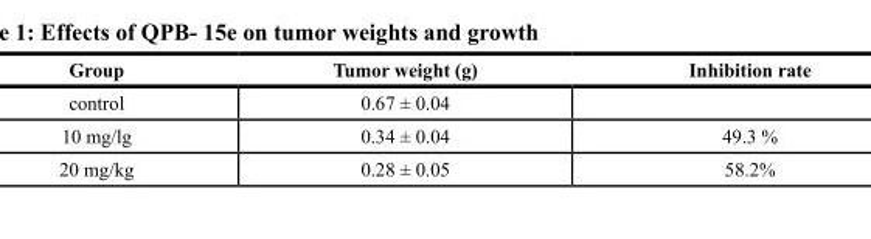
<table><thead><tr><td>Group</td><td>Tumor weight (g)</td><td>Inhibition rate</td></tr></thead><tbody><tr><td>control</td><td>0.67 ± 0.04</td><td></td></tr><tr><td>10 mg/lg</td><td>0.34 ± 0.04</td><td>49.3 %</td></tr><tr><td>20 mg/kg</td><td>0.28 ± 0.05</td><td>58.2%</td></tr></tbody></table>